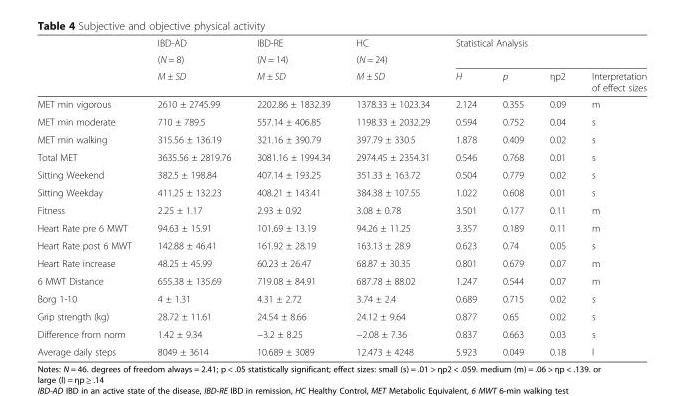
<table><thead><tr><td rowspan="3"></td><td rowspan="3">IBD-AD (N = 8) M ± SD</td><td rowspan="3">IBD-RE (N = 14) M ± SD</td><td rowspan="3">HC (N = 24) M ± SD</td><td rowspan="2" colspan="4">Statistical Analysis</td></tr><tr></tr><tr><td>H</td><td>p</td><td>ηp2</td><td>Interpretation of effect sizes</td></tr></thead><tbody><tr><td>MET min vigorous</td><td>2610 ± 2745.99</td><td>2202.86 ± 1832.39</td><td>1378.33 ± 1023.34</td><td>2.124</td><td>0.355</td><td>0.09</td><td>m</td></tr><tr><td>MET min moderate</td><td>710 ± 789.5</td><td>557.14 ± 406.85</td><td>1198.33 ± 2032.29</td><td>0.594</td><td>0.752</td><td>0.04</td><td>s</td></tr><tr><td>MET min walking</td><td>315.56 ± 136.19</td><td>321.16 ± 390.79</td><td>397.79 ± 330.5</td><td>1.878</td><td>0.409</td><td>0.02</td><td>s</td></tr><tr><td>Total MET</td><td>3635.56 ± 2819.76</td><td>3081.16 ± 1994.34</td><td>2974.45 ± 2354.31</td><td>0.546</td><td>0.768</td><td>0.01</td><td>s</td></tr><tr><td>Sitting Weekend</td><td>382.5 ± 198.84</td><td>407.14 ± 193.25</td><td>351.33 ± 163.72</td><td>0.504</td><td>0.779</td><td>0.02</td><td>s</td></tr><tr><td>Sitting Weekday</td><td>411.25 ± 132.23</td><td>408.21 ± 143.41</td><td>384.38 ± 107.55</td><td>1.022</td><td>0.608</td><td>0.01</td><td>s</td></tr><tr><td>Fitness</td><td>2.25 ± 1.17</td><td>2.93 ± 0.92</td><td>3.08 ± 0.78</td><td>3.501</td><td>0.177</td><td>0.11</td><td>m</td></tr><tr><td>Heart Rate pre 6 MWT</td><td>94.63 ± 15.91</td><td>101.69 ± 13.19</td><td>94.26 ± 11.25</td><td>3.357</td><td>0.189</td><td>0.11</td><td>m</td></tr><tr><td>Heart Rate post 6 MWT</td><td>142.88 ± 46.41</td><td>161.92 ± 28.19</td><td>163.13 ± 28.9</td><td>0.623</td><td>0.74</td><td>0.05</td><td>s</td></tr><tr><td>Heart Rate increase</td><td>48.25 ± 45.99</td><td>60.23 ± 26.47</td><td>68.87 ± 30.35</td><td>0.801</td><td>0.679</td><td>0.07</td><td>m</td></tr><tr><td>6 MWT Distance</td><td>655.38 ± 135.69</td><td>719.08 ± 84.91</td><td>687.78 ± 88.02</td><td>1.247</td><td>0.544</td><td>0.07</td><td>m</td></tr><tr><td>Borg 1-10</td><td>4 ± 1.31</td><td>4.31 ± 2.72</td><td>3.74 ± 2.4</td><td>0.689</td><td>0.715</td><td>0.02</td><td>s</td></tr><tr><td>Grip strength (kg)</td><td>28.72 ± 11.61</td><td>24.54 ± 8.66</td><td>24.12 ± 9.64</td><td>0.877</td><td>0.65</td><td>0.02</td><td>s</td></tr><tr><td>Difference from norm</td><td>1.42 ± 9.34</td><td>−3.2 ± 8.25</td><td>−2.08 ± 7.36</td><td>0.837</td><td>0.663</td><td>0.03</td><td>s</td></tr><tr><td>Average daily steps</td><td>8049 ± 3614</td><td>10.689 ± 3089</td><td>12.473 ± 4248</td><td>5.923</td><td>0.049</td><td>0.18</td><td>l</td></tr></tbody></table>